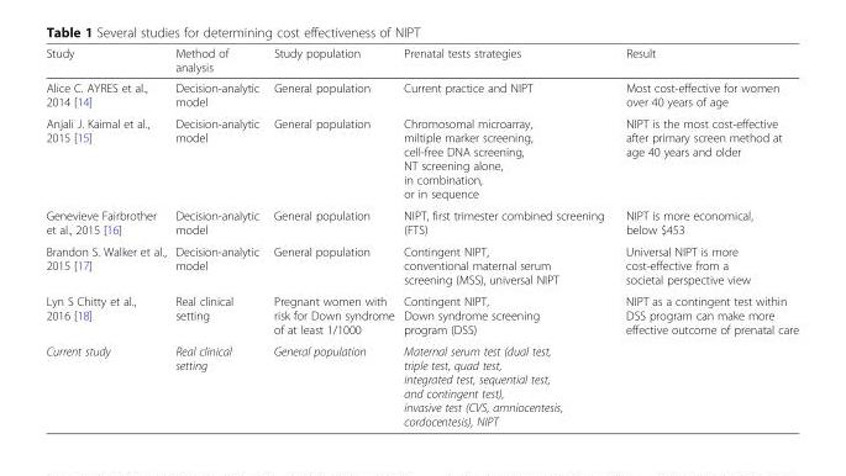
<table><thead><tr><td>Study</td><td>Method of analysis</td><td>Study population</td><td>Prenatal tests strategies</td><td>Result</td></tr></thead><tbody><tr><td>Alice C. AYRES et al., 2014 [14]</td><td>Decision-analytic model</td><td>General population</td><td>Current practice and NIPT</td><td>Most cost-effective for women over 40 years of age</td></tr><tr><td>Anjali J. Kaimal et al., 2015 [15]</td><td>Decision-analytic model</td><td>General population</td><td>Chromosomal microarray, miltiple marker screening, cell-free DNA screening, NT screening alone, in combination, or in sequence</td><td>NIPT is the most cost-effective after primary screen method at age 40 years and older</td></tr><tr><td>Genevieve Fairbrother et al., 2015 [16]</td><td>Decision-analytic model</td><td>General population</td><td>NIPT, first trimester combined screening (FTS)</td><td>NIPT is more economical, below $453</td></tr><tr><td>Brandon S. Walker et al., 2015 [17]</td><td>Decision-analytic model</td><td>General population</td><td>Contingent NIPT, conventional maternal serum screening (MSS), universal NIPT</td><td>Universal NIPT is more cost-effective from a societal perspective view</td></tr><tr><td>Lyn S Chitty et al., 2016 [18]</td><td>Real clinical setting</td><td>Pregnant women with risk for Down syndrome of at least 1/1000</td><td>Contingent NIPT, Down syndrome screening program (DSS)</td><td>NIPT as a contingent test within DSS program can make more effective outcome of prenatal care</td></tr><tr><td>Current study</td><td>Real clinical setting</td><td>General population</td><td>Maternal serum test (dual test, triple test, quad test, integrated test, sequential test, and contingent test), invasive test (CVS, amniocentesis, cordocentesis), NIPT</td><td></td></tr></tbody></table>